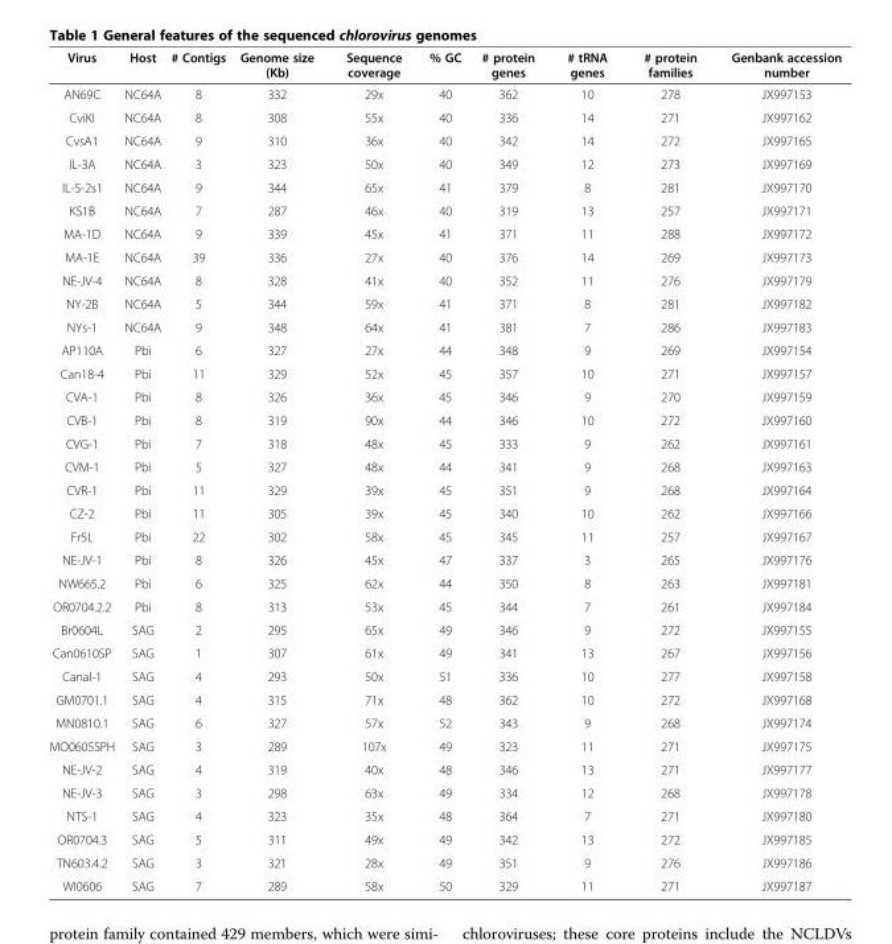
<table><thead><tr><td>Virus</td><td>Host</td><td># Contigs</td><td>Genome size (Kb)</td><td>Sequence coverage</td><td>% GC</td><td># protein genes</td><td># tRNA genes</td><td># protein families</td><td>Genbank accession number</td></tr></thead><tbody><tr><td>AN69C</td><td>NC64A</td><td>8</td><td>332</td><td>29x</td><td>40</td><td>362</td><td>10</td><td>278</td><td>JX997153</td></tr><tr><td>CviKI</td><td>NC64A</td><td>8</td><td>308</td><td>55x</td><td>40</td><td>336</td><td>14</td><td>271</td><td>JX997162</td></tr><tr><td>CvsA1</td><td>NC64A</td><td>9</td><td>310</td><td>36x</td><td>40</td><td>342</td><td>14</td><td>272</td><td>JX997165</td></tr><tr><td>IL-3A</td><td>NC64A</td><td>3</td><td>323</td><td>50x</td><td>40</td><td>349</td><td>12</td><td>273</td><td>JX997169</td></tr><tr><td>IL-5-2s1</td><td>NC64A</td><td>9</td><td>344</td><td>65x</td><td>41</td><td>379</td><td>8</td><td>281</td><td>JX997170</td></tr><tr><td>KS1B</td><td>NC64A</td><td>7</td><td>287</td><td>46x</td><td>40</td><td>319</td><td>13</td><td>257</td><td>JX997171</td></tr><tr><td>MA-1D</td><td>NC64A</td><td>9</td><td>339</td><td>45x</td><td>41</td><td>371</td><td>11</td><td>288</td><td>JX997172</td></tr><tr><td>MA-1E</td><td>NC64A</td><td>39</td><td>336</td><td>27x</td><td>40</td><td>376</td><td>14</td><td>269</td><td>JX997173</td></tr><tr><td>NE-JV-4</td><td>NC64A</td><td>8</td><td>328</td><td>41x</td><td>40</td><td>352</td><td>11</td><td>276</td><td>JX997179</td></tr><tr><td>NY-2B</td><td>NC64A</td><td>5</td><td>344</td><td>59x</td><td>41</td><td>371</td><td>8</td><td>281</td><td>JX997182</td></tr><tr><td>NYs-1</td><td>NC64A</td><td>9</td><td>348</td><td>64x</td><td>41</td><td>381</td><td>7</td><td>286</td><td>JX997183</td></tr><tr><td>AP110A</td><td>Pbi</td><td>6</td><td>327</td><td>27x</td><td>44</td><td>348</td><td>9</td><td>269</td><td>JX997154</td></tr><tr><td>Can18-4</td><td>Pbi</td><td>11</td><td>329</td><td>52x</td><td>45</td><td>357</td><td>10</td><td>271</td><td>JX997157</td></tr><tr><td>CVA-1</td><td>Pbi</td><td>8</td><td>326</td><td>36x</td><td>45</td><td>346</td><td>9</td><td>270</td><td>JX997159</td></tr><tr><td>CVB-1</td><td>Pbi</td><td>8</td><td>319</td><td>90x</td><td>44</td><td>346</td><td>10</td><td>272</td><td>JX997160</td></tr><tr><td>CVG-1</td><td>Pbi</td><td>7</td><td>318</td><td>48x</td><td>45</td><td>333</td><td>9</td><td>262</td><td>JX997161</td></tr><tr><td>CVM-1</td><td>Pbi</td><td>5</td><td>327</td><td>48x</td><td>44</td><td>341</td><td>9</td><td>268</td><td>JX997163</td></tr><tr><td>CVR-1</td><td>Pbi</td><td>11</td><td>329</td><td>39x</td><td>45</td><td>351</td><td>9</td><td>268</td><td>JX997164</td></tr><tr><td>CZ-2</td><td>Pbi</td><td>11</td><td>305</td><td>39x</td><td>45</td><td>340</td><td>10</td><td>262</td><td>JX997166</td></tr><tr><td>Fr5L</td><td>Pbi</td><td>22</td><td>302</td><td>58x</td><td>45</td><td>345</td><td>11</td><td>257</td><td>JX997167</td></tr><tr><td>NE-JV-1</td><td>Pbi</td><td>8</td><td>326</td><td>45x</td><td>47</td><td>337</td><td>3</td><td>265</td><td>JX997176</td></tr><tr><td>NW665.2</td><td>Pbi</td><td>6</td><td>325</td><td>62x</td><td>44</td><td>350</td><td>8</td><td>263</td><td>JX997181</td></tr><tr><td>OR0704.2.2</td><td>Pbi</td><td>8</td><td>313</td><td>53x</td><td>45</td><td>344</td><td>7</td><td>261</td><td>JX997184</td></tr><tr><td>Br0604L</td><td>SAG</td><td>2</td><td>295</td><td>65x</td><td>49</td><td>346</td><td>9</td><td>272</td><td>JX997155</td></tr><tr><td>Can0610SP</td><td>SAG</td><td>1</td><td>307</td><td>61x</td><td>49</td><td>341</td><td>13</td><td>267</td><td>JX997156</td></tr><tr><td>Canal-1</td><td>SAG</td><td>4</td><td>293</td><td>50x</td><td>51</td><td>336</td><td>10</td><td>277</td><td>JX997158</td></tr><tr><td>GM0701.1</td><td>SAG</td><td>4</td><td>315</td><td>71x</td><td>48</td><td>362</td><td>10</td><td>272</td><td>JX997168</td></tr><tr><td>MN0810.1</td><td>SAG</td><td>6</td><td>327</td><td>57x</td><td>52</td><td>343</td><td>9</td><td>268</td><td>JX997174</td></tr><tr><td>MO0605SPH</td><td>SAG</td><td>3</td><td>289</td><td>107x</td><td>49</td><td>323</td><td>11</td><td>271</td><td>JX997175</td></tr><tr><td>NE-JV-2</td><td>SAG</td><td>4</td><td>319</td><td>40x</td><td>48</td><td>346</td><td>13</td><td>271</td><td>JX997177</td></tr><tr><td>NE-JV-3</td><td>SAG</td><td>3</td><td>298</td><td>63x</td><td>49</td><td>334</td><td>12</td><td>268</td><td>JX997178</td></tr><tr><td>NTS-1</td><td>SAG</td><td>4</td><td>323</td><td>35x</td><td>48</td><td>364</td><td>7</td><td>271</td><td>JX997180</td></tr><tr><td>OR0704.3</td><td>SAG</td><td>5</td><td>311</td><td>49x</td><td>49</td><td>342</td><td>13</td><td>272</td><td>JX997185</td></tr><tr><td>TN603.4.2</td><td>SAG</td><td>3</td><td>321</td><td>28x</td><td>49</td><td>351</td><td>9</td><td>276</td><td>JX997186</td></tr><tr><td>WI0606</td><td>SAG</td><td>7</td><td>289</td><td>58x</td><td>50</td><td>329</td><td>11</td><td>271</td><td>JX997187</td></tr></tbody></table>